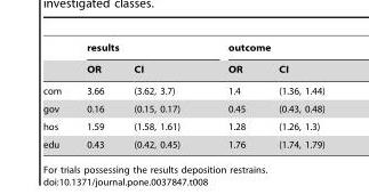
<table><thead><tr><td rowspan="2"></td><td colspan="2">results</td><td colspan="2">outcome</td></tr><tr><td>OR</td><td>CI</td><td>OR</td><td>CI</td></tr></thead><tbody><tr><td>com</td><td>3.66</td><td>(3.62, 3.7)</td><td>1.4</td><td>(1.36, 1.44)</td></tr><tr><td>gov</td><td>0.16</td><td>(0.15, 0.17)</td><td>0.45</td><td>(0.43, 0.48)</td></tr><tr><td>hos</td><td>1.59</td><td>(1.58, 1.61)</td><td>1.28</td><td>(1.26, 1.3)</td></tr><tr><td>edu</td><td>0.43</td><td>(0.42, 0.45)</td><td>1.76</td><td>(1.74, 1.79)</td></tr></tbody></table>